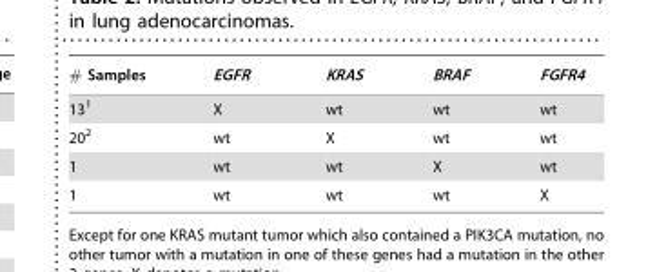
<table><thead><tr><td># Samples</td><td>EGFR</td><td>KRAS</td><td>BRAF</td><td>FGFR4</td></tr></thead><tbody><tr><td>13<sup>1</sup></td><td>X</td><td>wt</td><td>wt</td><td>wt</td></tr><tr><td>20<sup>2</sup></td><td>wt</td><td>X</td><td>wt</td><td>wt</td></tr><tr><td>1</td><td>wt</td><td>wt</td><td>X</td><td>wt</td></tr><tr><td>1</td><td>wt</td><td>wt</td><td>wt</td><td>X</td></tr></tbody></table>